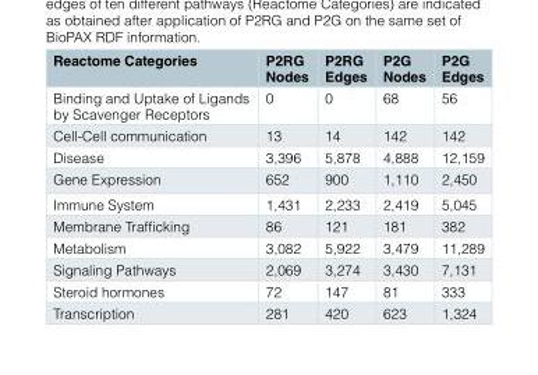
<table><thead><tr><td>Reactome Categories</td><td>P2RG Nodes</td><td>P2RG Edges</td><td>P2G Nodes</td><td>P2G Edges</td></tr></thead><tbody><tr><td>Binding and Uptake of Ligands by Scavenger Receptors</td><td>0</td><td>0</td><td>68</td><td>56</td></tr><tr><td>Cell-Cell communication</td><td>13</td><td>14</td><td>142</td><td>142</td></tr><tr><td>Disease</td><td>3,396</td><td>5,878</td><td>4,888</td><td>12,159</td></tr><tr><td>Gene Expression</td><td>652</td><td>900</td><td>1,110</td><td>2,450</td></tr><tr><td>Immune System</td><td>1,431</td><td>2,233</td><td>2,419</td><td>5,045</td></tr><tr><td>Membrane Trafficking</td><td>86</td><td>121</td><td>181</td><td>382</td></tr><tr><td>Metabolism</td><td>3,082</td><td>5,922</td><td>3,479</td><td>11,289</td></tr><tr><td>Signaling Pathways</td><td>2,069</td><td>3,274</td><td>3,430</td><td>7,131</td></tr><tr><td>Steroid hormones</td><td>72</td><td>147</td><td>81</td><td>333</td></tr><tr><td>Transcription</td><td>281</td><td>420</td><td>623</td><td>1,324</td></tr></tbody></table>